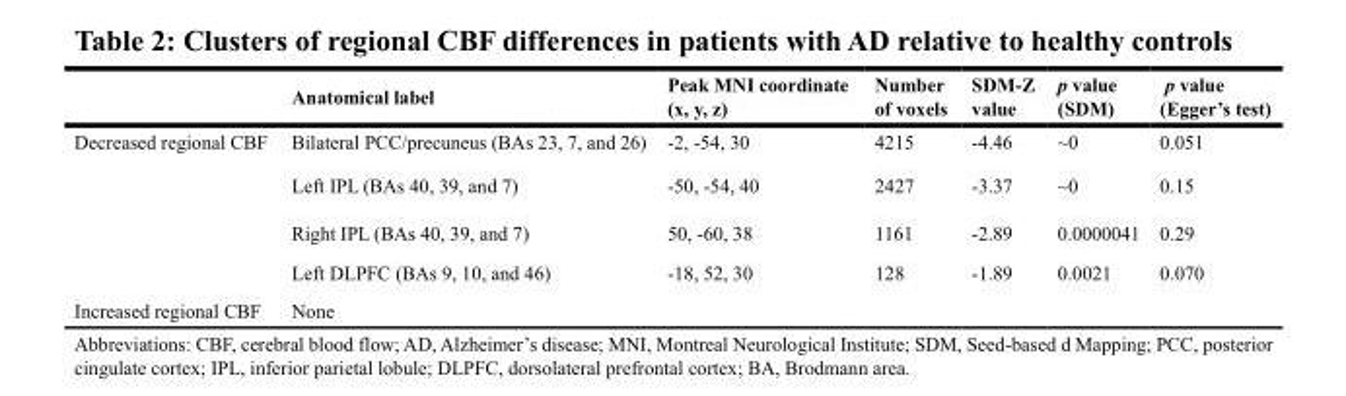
<table><thead><tr><td></td><td>Anatomical label</td><td>Peak MNI coordinate (x, y, z)</td><td>Number of voxels</td><td>SDM-Z value</td><td>p value (SDM)</td><td>p value (Egger’s test)</td></tr></thead><tbody><tr><td rowspan="4">Decreased regional CBF</td><td>Bilateral PCC/precuneus (BAs 23, 7, and 26)</td><td>-2, -54, 30</td><td>4215</td><td>-4.46</td><td>~0</td><td>0.051</td></tr><tr><td>Left IPL (BAs 40, 39, and 7)</td><td>-50, -54, 40</td><td>2427</td><td>-3.37</td><td>~0</td><td>0.15</td></tr><tr><td>Right IPL (BAs 40, 39, and 7)</td><td>50, -60, 38</td><td>1161</td><td>-2.89</td><td>0.0000041</td><td>0.29</td></tr><tr><td>Left DLPFC (BAs 9, 10, and 46)</td><td>-18, 52, 30</td><td>128</td><td>-1.89</td><td>0.0021</td><td>0.070</td></tr><tr><td>Increased regional CBF</td><td>None</td><td></td><td></td><td></td><td></td><td></td></tr></tbody></table>